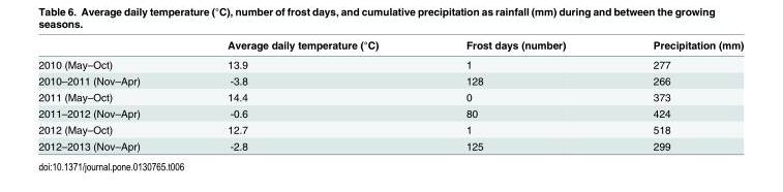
<table><thead><tr><td></td><td>Average daily temperature (°C)</td><td>Frost days (number)</td><td>Precipitation (mm)</td></tr></thead><tbody><tr><td>2010 (May–Oct)</td><td>13.9</td><td>1</td><td>277</td></tr><tr><td>2010–2011 (Nov–Apr)</td><td>-3.8</td><td>128</td><td>266</td></tr><tr><td>2011 (May–Oct)</td><td>14.4</td><td>0</td><td>373</td></tr><tr><td>2011–2012 (Nov–Apr)</td><td>-0.6</td><td>80</td><td>424</td></tr><tr><td>2012 (May–Oct)</td><td>12.7</td><td>1</td><td>518</td></tr><tr><td>2012–2013 (Nov–Apr)</td><td>-2.8</td><td>125</td><td>299</td></tr></tbody></table>